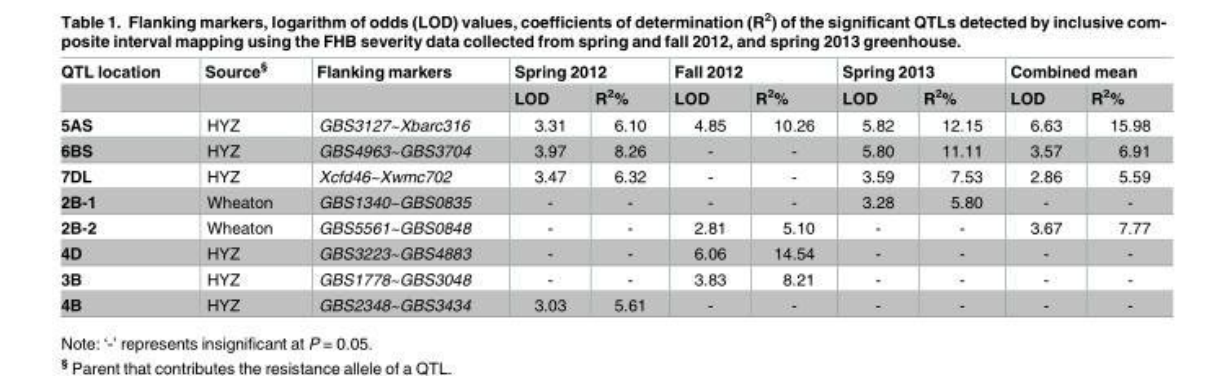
<table><thead><tr><td rowspan="2">QTL location</td><td rowspan="2">Source<sup>§</sup></td><td rowspan="2">Flanking markers</td><td colspan="2">Spring 2012</td><td colspan="2">Fall 2012</td><td colspan="2">Spring 2013</td><td colspan="2">Combined mean</td></tr><tr><td>LOD</td><td>R<sup>2</sup>%</td><td>LOD</td><td>R<sup>2</sup>%</td><td>LOD</td><td>R<sup>2</sup>%</td><td>LOD</td><td>R<sup>2</sup>%</td></tr></thead><tbody><tr><td>5AS</td><td>HYZ</td><td>GBS3127~Xbarc316</td><td>3.31</td><td>6.10</td><td>4.85</td><td>10.26</td><td>5.82</td><td>12.15</td><td>6.63</td><td>15.98</td></tr><tr><td>6BS</td><td>HYZ</td><td>GBS4963~GBS3704</td><td>3.97</td><td>8.26</td><td>-</td><td>-</td><td>5.80</td><td>11.11</td><td>3.57</td><td>6.91</td></tr><tr><td>7DL</td><td>HYZ</td><td>Xcfd46~Xwmc702</td><td>3.47</td><td>6.32</td><td>-</td><td>-</td><td>3.59</td><td>7.53</td><td>2.86</td><td>5.59</td></tr><tr><td>2B-1</td><td>Wheaton</td><td>GBS1340~GBS0835</td><td>-</td><td>-</td><td>-</td><td>-</td><td>3.28</td><td>5.80</td><td>-</td><td>-</td></tr><tr><td>2B-2</td><td>Wheaton</td><td>GBS5561~GBS0848</td><td>-</td><td>-</td><td>2.81</td><td>5.10</td><td>-</td><td>-</td><td>3.67</td><td>7.77</td></tr><tr><td>4D</td><td>HYZ</td><td>GBS3223~GBS4883</td><td>-</td><td>-</td><td>6.06</td><td>14.54</td><td>-</td><td>-</td><td>-</td><td>-</td></tr><tr><td>3B</td><td>HYZ</td><td>GBS1778~GBS3048</td><td>-</td><td>-</td><td>3.83</td><td>8.21</td><td>-</td><td>-</td><td>-</td><td>-</td></tr><tr><td>4B</td><td>HYZ</td><td>GBS2348~GBS3434</td><td>3.03</td><td>5.61</td><td>-</td><td>-</td><td>-</td><td>-</td><td>-</td><td>-</td></tr></tbody></table>